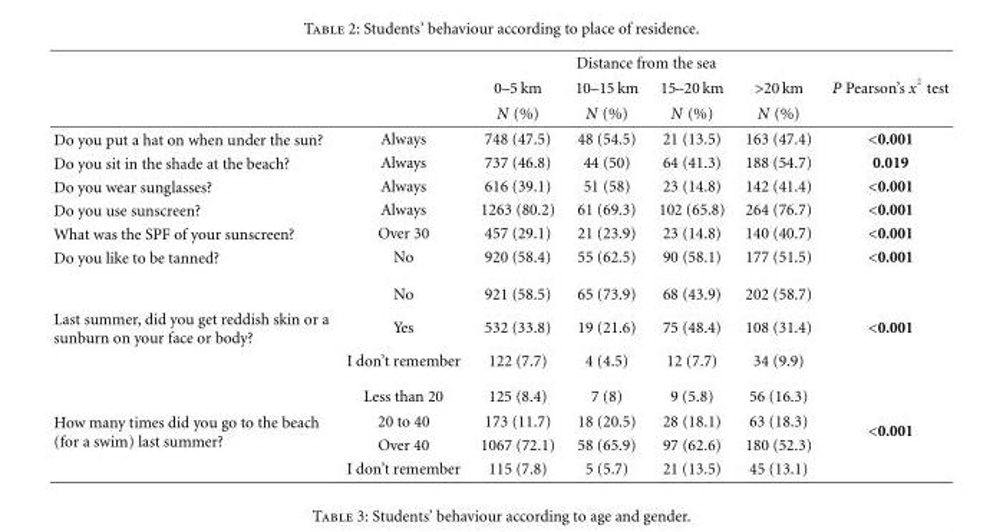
<table><thead><tr><td rowspan="3"></td><td rowspan="3"></td><td colspan="4">Distance from the sea</td><td rowspan="3">P Pearson’s x <sup>2</sup> test</td></tr><tr><td rowspan="2">0–5 km N (%)</td><td rowspan="2">10–15 km N (%)</td><td rowspan="2">15–20 km N (%)</td><td rowspan="2">&gt;20 km N (%)</td></tr><tr></tr></thead><tbody><tr><td>Do you put a hat on when under the sun?</td><td>Always</td><td>748 (47.5)</td><td>48 (54.5)</td><td>21 (13.5)</td><td>163 (47.4)</td><td>&lt;0.001</td></tr><tr><td>Do you sit in the shade at the beach?</td><td>Always</td><td>737 (46.8)</td><td>44 (50)</td><td>64 (41.3)</td><td>188 (54.7)</td><td>0.019</td></tr><tr><td>Do you wear sunglasses?</td><td>Always</td><td>616 (39.1)</td><td>51 (58)</td><td>23 (14.8)</td><td>142 (41.4)</td><td>&lt;0.001</td></tr><tr><td>Do you use sunscreen?</td><td>Always</td><td>1263 (80.2)</td><td>61 (69.3)</td><td>102 (65.8)</td><td>264 (76.7)</td><td>&lt;0.001</td></tr><tr><td>What was the SPF of your sunscreen?</td><td>Over 30</td><td>457 (29.1)</td><td>21 (23.9)</td><td>23 (14.8)</td><td>140 (40.7)</td><td>&lt;0.001</td></tr><tr><td rowspan="2">Do you like to be tanned?</td><td>No</td><td>920 (58.4)</td><td>55 (62.5)</td><td>90 (58.1)</td><td>177 (51.5)</td><td>&lt;0.001</td></tr><tr><td>No</td><td>921 (58.5)</td><td>65 (73.9)</td><td>68 (43.9)</td><td>202 (58.7)</td><td></td></tr><tr><td rowspan="3">Last summer, did you get reddish skin or a sunburn on your face or body?</td><td>Yes</td><td>532 (33.8)</td><td>19 (21.6)</td><td>75 (48.4)</td><td>108 (31.4)</td><td>&lt;0.001</td></tr><tr><td>I don’t remember</td><td>122 (7.7)</td><td>4 (4.5)</td><td>12 (7.7)</td><td>34 (9.9)</td><td></td></tr><tr><td>Less than 20</td><td>125 (8.4)</td><td>7 (8)</td><td>9 (5.8)</td><td>56 (16.3)</td><td></td></tr><tr><td rowspan="3">How many times did you go to the beach (for a swim) last summer?</td><td>20 to 40</td><td>173 (11.7)</td><td>18 (20.5)</td><td>28 (18.1)</td><td>63 (18.3)</td><td rowspan="2">&lt;0.001</td></tr><tr><td>Over 40</td><td>1067 (72.1)</td><td>58 (65.9)</td><td>97 (62.6)</td><td>180 (52.3)</td></tr><tr><td>I don’t remember</td><td>115 (7.8)</td><td>5 (5.7)</td><td>21 (13.5)</td><td>45 (13.1)</td><td></td></tr></tbody></table>